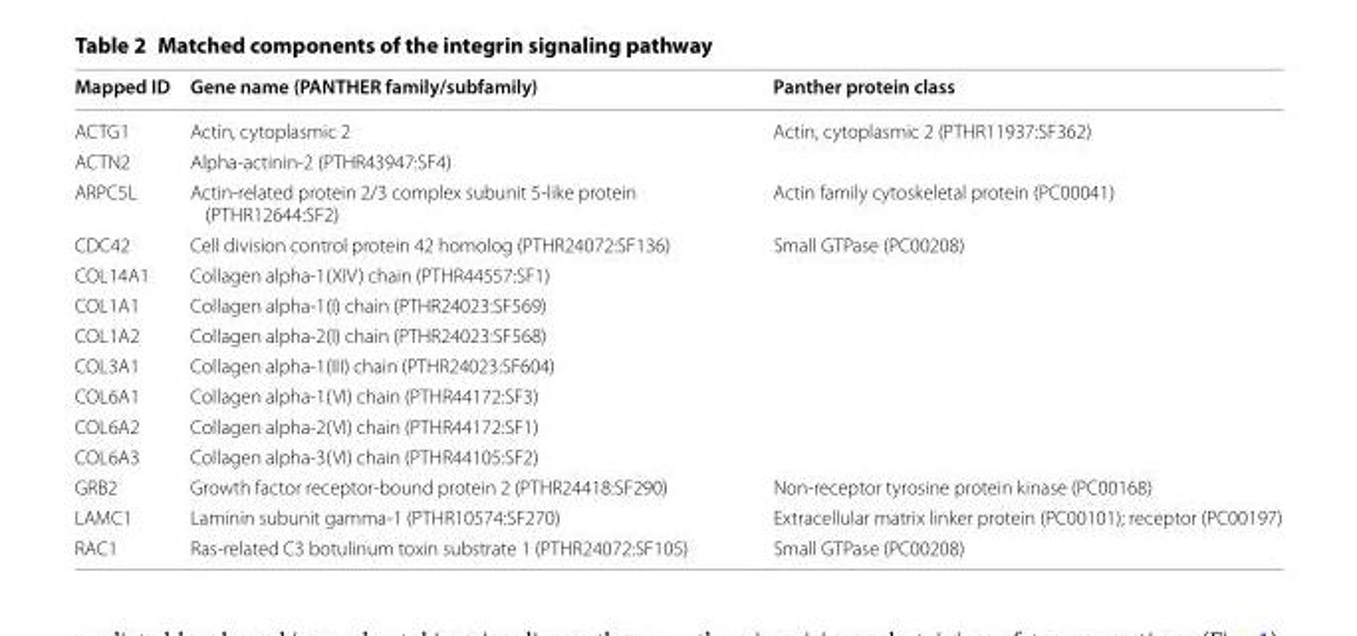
<table><thead><tr><td>Mapped ID</td><td>Gene name (PANTHER family/subfamily)</td><td>Panther protein class</td></tr></thead><tbody><tr><td>ACTG1</td><td>Actin, cytoplasmic 2</td><td>Actin, cytoplasmic 2 (PTHR11937:SF362)</td></tr><tr><td>ACTN2</td><td>Alpha-actinin-2 (PTHR43947:SF4)</td><td></td></tr><tr><td>ARPC5L</td><td>Actin-related protein 2/3 complex subunit 5-like protein (PTHR12644:SF2)</td><td>Actin family cytoskeletal protein (PC00041)</td></tr><tr><td>CDC42</td><td>Cell division control protein 42 homolog (PTHR24072:SF136)</td><td>Small GTPase (PC00208)</td></tr><tr><td>COL14A1</td><td>Collagen alpha-1(XIV) chain (PTHR44557:SF1)</td><td></td></tr><tr><td>COL1A1</td><td>Collagen alpha-1(I) chain (PTHR24023:SF569)</td><td></td></tr><tr><td>COL1A2</td><td>Collagen alpha-2(I) chain (PTHR24023:SF568)</td><td></td></tr><tr><td>COL3A1</td><td>Collagen alpha-1(III) chain (PTHR24023:SF604)</td><td></td></tr><tr><td>COL6A1</td><td>Collagen alpha-1(VI) chain (PTHR44172:SF3)</td><td></td></tr><tr><td>COL6A2</td><td>Collagen alpha-2(VI) chain (PTHR44172:SF1)</td><td></td></tr><tr><td>COL6A3</td><td>Collagen alpha-3(VI) chain (PTHR44105:SF2)</td><td></td></tr><tr><td>GRB2</td><td>Growth factor receptor-bound protein 2 (PTHR24418:SF290)</td><td>Non-receptor tyrosine protein kinase (PC00168)</td></tr><tr><td>LAMC1</td><td>Laminin subunit gamma-1 (PTHR10574:SF270)</td><td>Extracellular matrix linker protein (PC00101); receptor (PC00197)</td></tr><tr><td>RAC1</td><td>Ras-related C3 botulinum toxin substrate 1 (PTHR24072:SF105)</td><td>Small GTPase (PC00208)</td></tr></tbody></table>